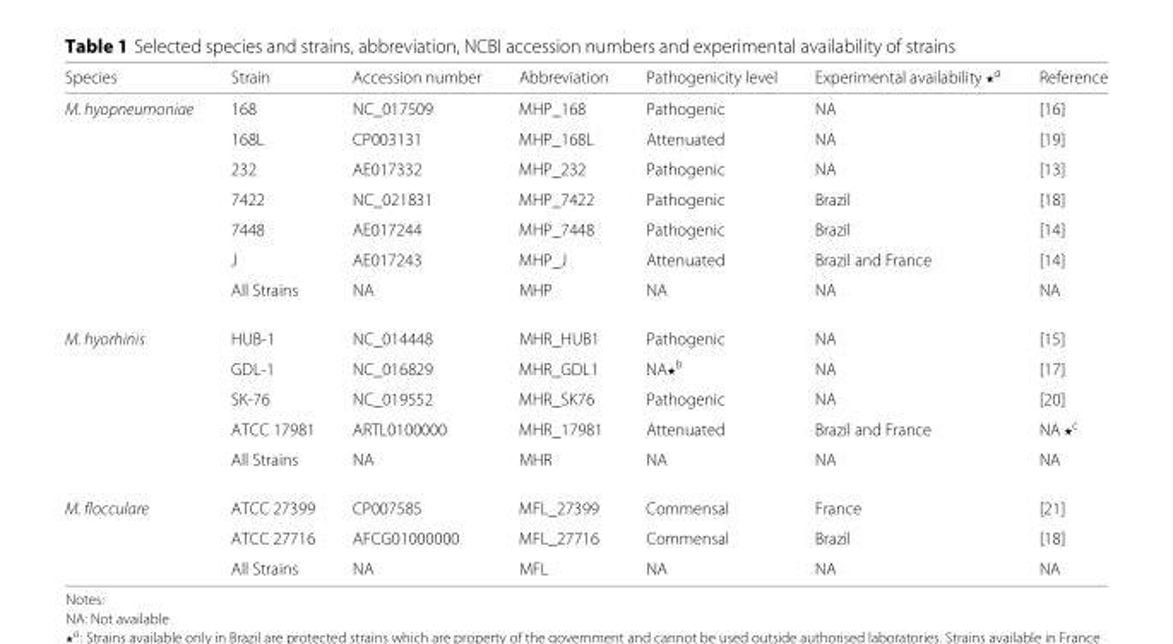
<table><thead><tr><td>Species</td><td>Strain</td><td>Accession number</td><td>Abbreviation</td><td>Pathogenicity level</td><td>Experimental availability ⋆<sup>a</sup></td><td>Reference</td></tr></thead><tbody><tr><td rowspan="7">M. hyopneumoniae</td><td>168</td><td>NC_017509</td><td>MHP_168</td><td>Pathogenic</td><td>NA</td><td>[16]</td></tr><tr><td>168L</td><td>CP003131</td><td>MHP_168L</td><td>Attenuated</td><td>NA</td><td>[19]</td></tr><tr><td>232</td><td>AE017332</td><td>MHP_232</td><td>Pathogenic</td><td>NA</td><td>[13]</td></tr><tr><td>7422</td><td>NC_021831</td><td>MHP_7422</td><td>Pathogenic</td><td>Brazil</td><td>[18]</td></tr><tr><td>7448</td><td>AE017244</td><td>MHP_7448</td><td>Pathogenic</td><td>Brazil</td><td>[14]</td></tr><tr><td>J</td><td>AE017243</td><td>MHP_J</td><td>Attenuated</td><td>Brazil and France</td><td>[14]</td></tr><tr><td>All Strains</td><td>NA</td><td>MHP</td><td>NA</td><td>NA</td><td>NA</td></tr><tr><td rowspan="5">M. hyorhinis</td><td>HUB-1</td><td>NC_014448</td><td>MHR_HUB1</td><td>Pathogenic</td><td>NA</td><td>[15]</td></tr><tr><td>GDL-1</td><td>NC_016829</td><td>MHR_GDL1</td><td>NA⋆<sup>b</sup></td><td>NA</td><td>[17]</td></tr><tr><td>SK-76</td><td>NC_019552</td><td>MHR_SK76</td><td>Pathogenic</td><td>NA</td><td>[20]</td></tr><tr><td>ATCC 17981</td><td>ARTL0100000</td><td>MHR_17981</td><td>Attenuated</td><td>Brazil and France</td><td>NA ⋆<sup>c</sup></td></tr><tr><td>All Strains</td><td>NA</td><td>MHR</td><td>NA</td><td>NA</td><td>NA</td></tr><tr><td rowspan="3">M. flocculare</td><td>ATCC 27399</td><td>CP007585</td><td>MFL_27399</td><td>Commensal</td><td>France</td><td>[21]</td></tr><tr><td>ATCC 27716</td><td>AFCG01000000</td><td>MFL_27716</td><td>Commensal</td><td>Brazil</td><td>[18]</td></tr><tr><td>All Strains</td><td>NA</td><td>MFL</td><td>NA</td><td>NA</td><td>NA</td></tr></tbody></table>